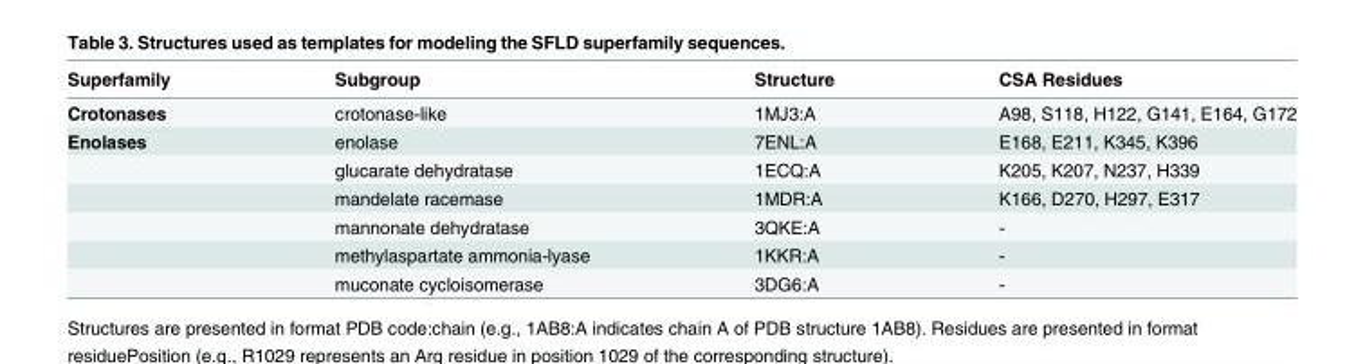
<table><thead><tr><td>Superfamily</td><td>Subgroup</td><td>Structure</td><td>CSA Residues</td></tr></thead><tbody><tr><td>Crotonases</td><td>crotonase-like</td><td>1MJ3:A</td><td>A98, S118, H122, G141, E164, G172</td></tr><tr><td rowspan="6">Enolases</td><td>enolase</td><td>7ENL:A</td><td>E168, E211, K345, K396</td></tr><tr><td>glucarate dehydratase</td><td>1ECQ:A</td><td>K205, K207, N237, H339</td></tr><tr><td>mandelate racemase</td><td>1MDR:A</td><td>K166, D270, H297, E317</td></tr><tr><td>mannonate dehydratase</td><td>3QKE:A</td><td>-</td></tr><tr><td>methylaspartate ammonia-lyase</td><td>1KKR:A</td><td>-</td></tr><tr><td>muconate cycloisomerase</td><td>3DG6:A</td><td>-</td></tr></tbody></table>